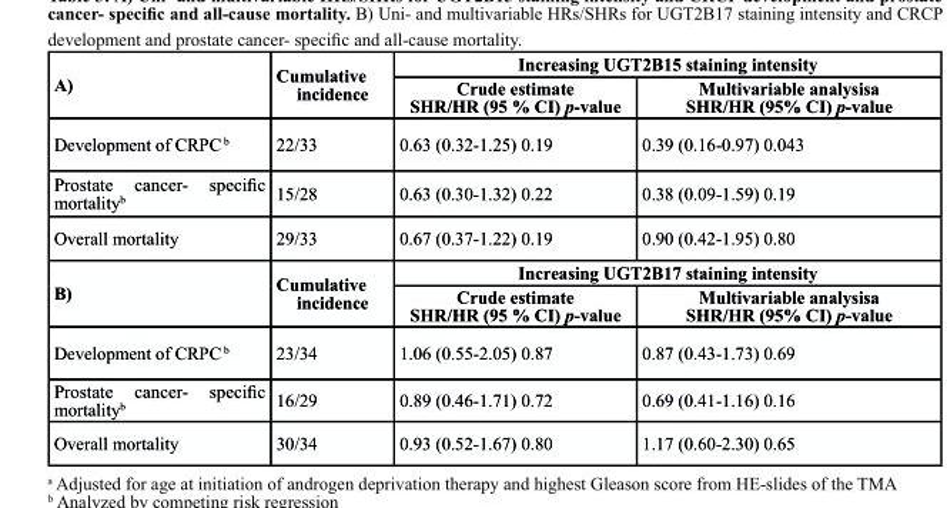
<table><tbody><tr><td rowspan="2">A)</td><td rowspan="2">cumulative incidence</td><td colspan="2">Increasing uGt2b15 staining intensity</td></tr><tr><td>crude estimate sHr/Hr (95 % cI) p-value</td><td>Multivariable analysisa sHr/Hr (95% cI) p-value</td></tr><tr><td>Development of CRPC <sup>b</sup></td><td>22/33</td><td>0.63 (0.32-1.25) 0.19</td><td>0.39 (0.16-0.97) 0.043</td></tr><tr><td>Prostate cancer- specific mortality<sup>b</sup></td><td>15/28</td><td>0.63 (0.30-1.32) 0.22</td><td>0.38 (0.09-1.59) 0.19</td></tr><tr><td>Overall mortality</td><td>29/33</td><td>0.67 (0.37-1.22) 0.19</td><td>0.90 (0.42-1.95) 0.80</td></tr><tr><td rowspan="2">b)</td><td rowspan="2">cumulative incidence</td><td colspan="2">Increasing uGt2b17 staining intensity</td></tr><tr><td>crude estimate sHr/Hr (95 % cI) p-value</td><td>Multivariable analysisa sHr/Hr (95% cI) p-value</td></tr><tr><td>Development of CRPC <sup>b</sup></td><td>23/34</td><td>1.06 (0.55-2.05) 0.87</td><td>0.87 (0.43-1.73) 0.69</td></tr><tr><td>Prostate cancer- specific mortality<sup>b</sup></td><td>16/29</td><td>0.89 (0.46-1.71) 0.72</td><td>0.69 (0.41-1.16) 0.16</td></tr><tr><td>Overall mortality</td><td>30/34</td><td>0.93 (0.52-1.67) 0.80</td><td>1.17 (0.60-2.30) 0.65</td></tr></tbody></table>